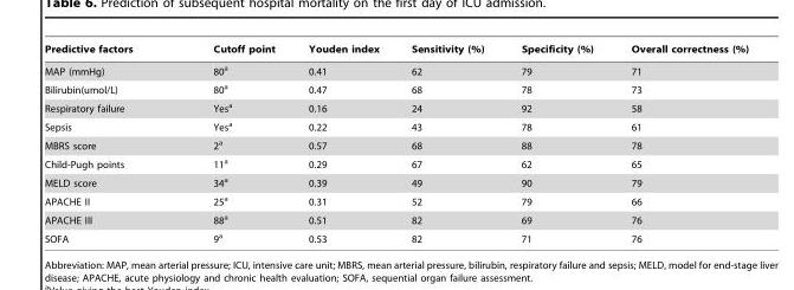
<table><thead><tr><td>Predictive factors</td><td>Cutoff point</td><td>Youden index</td><td>Sensitivity (%)</td><td>Specificity (%)</td><td>Overall correctness (%)</td></tr></thead><tbody><tr><td>MAP (mmHg)</td><td>80<sup>a</sup></td><td>0.41</td><td>62</td><td>79</td><td>71</td></tr><tr><td>Bilirubin(umol/L)</td><td>80<sup>a</sup></td><td>0.47</td><td>68</td><td>78</td><td>73</td></tr><tr><td>Respiratory failure</td><td>Yes<sup>a</sup></td><td>0.16</td><td>24</td><td>92</td><td>58</td></tr><tr><td>Sepsis</td><td>Yes<sup>a</sup></td><td>0.22</td><td>43</td><td>78</td><td>61</td></tr><tr><td>MBRS score</td><td>2<sup>a</sup></td><td>0.57</td><td>68</td><td>88</td><td>78</td></tr><tr><td>Child-Pugh points</td><td>11<sup>a</sup></td><td>0.29</td><td>67</td><td>62</td><td>65</td></tr><tr><td>MELD score</td><td>34<sup>a</sup></td><td>0.39</td><td>49</td><td>90</td><td>79</td></tr><tr><td>APACHE II</td><td>25<sup>a</sup></td><td>0.31</td><td>52</td><td>79</td><td>66</td></tr><tr><td>APACHE III</td><td>88<sup>a</sup></td><td>0.51</td><td>82</td><td>69</td><td>76</td></tr><tr><td>SOFA</td><td>9<sup>a</sup></td><td>0.53</td><td>82</td><td>71</td><td>76</td></tr></tbody></table>